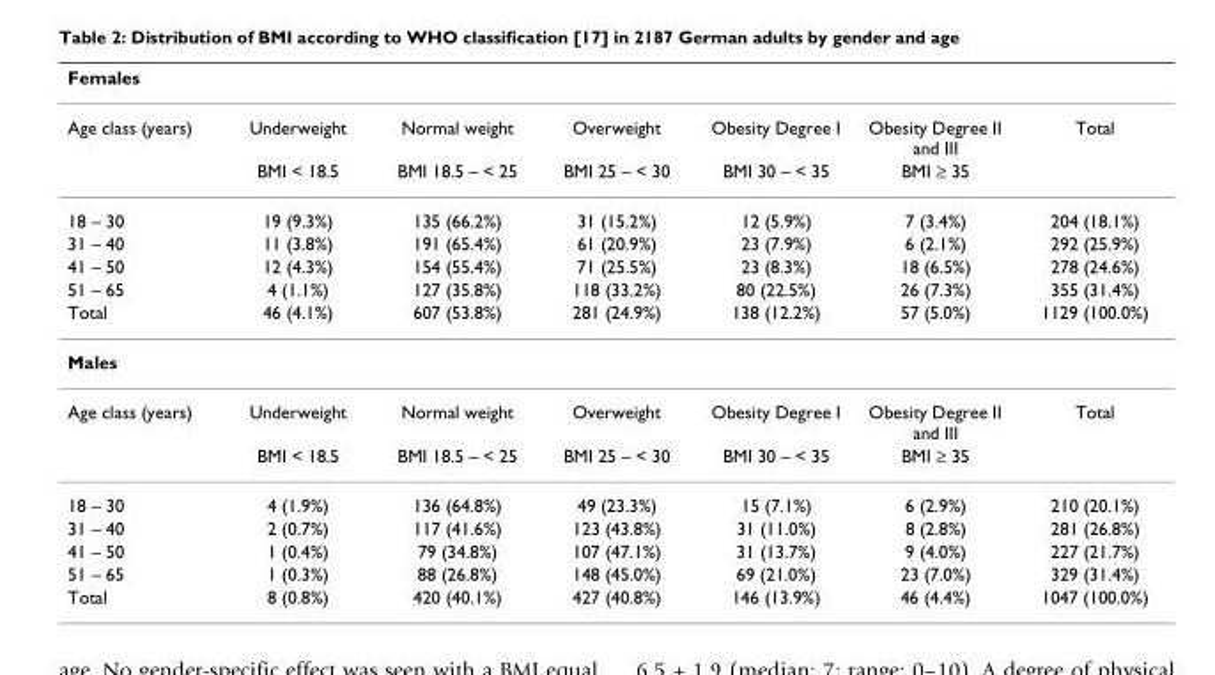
<table><thead><tr><td colspan="7">Females</td></tr><tr><td>Age class (years)</td><td>Underweight</td><td>Normal weight</td><td>Overweight</td><td>Obesity Degree I</td><td>Obesity Degree II and III</td><td>Total</td></tr></thead><tbody><tr><td></td><td>BMI &lt; 18.5</td><td>BMI 18.5 – &lt; 25</td><td>BMI 25 – &lt; 30</td><td>BMI 30 – &lt; 35</td><td>BMI ≥ 35</td><td></td></tr><tr><td>18 – 30</td><td>19 (9.3%)</td><td>135 (66.2%)</td><td>31 (15.2%)</td><td>12 (5.9%)</td><td>7 (3.4%)</td><td>204 (18.1%)</td></tr><tr><td>31 – 40</td><td>11 (3.8%)</td><td>191 (65.4%)</td><td>61 (20.9%)</td><td>23 (7.9%)</td><td>6 (2.1%)</td><td>292 (25.9%)</td></tr><tr><td>41 – 50</td><td>12 (4.3%)</td><td>154 (55.4%)</td><td>71 (25.5%)</td><td>23 (8.3%)</td><td>18 (6.5%)</td><td>278 (24.6%)</td></tr><tr><td>51 – 65</td><td>4 (1.1%)</td><td>127 (35.8%)</td><td>118 (33.2%)</td><td>80 (22.5%)</td><td>26 (7.3%)</td><td>355 (31.4%)</td></tr><tr><td>Total</td><td>46 (4.1%)</td><td>607 (53.8%)</td><td>281 (24.9%)</td><td>138 (12.2%)</td><td>57 (5.0%)</td><td>1129 (100.0%)</td></tr><tr><td colspan="7">Males</td></tr><tr><td rowspan="2">Age class (years)</td><td>Underweight</td><td>Normal weight</td><td>Overweight</td><td>Obesity Degree I</td><td>Obesity Degree II and III</td><td>Total</td></tr><tr><td>BMI &lt; 18.5</td><td>BMI 18.5 – &lt; 25</td><td>BMI 25 – &lt; 30</td><td>BMI 30 – &lt; 35</td><td>BMI ≥ 35</td><td></td></tr><tr><td>18 – 30</td><td>4 (1.9%)</td><td>136 (64.8%)</td><td>49 (23.3%)</td><td>15 (7.1%)</td><td>6 (2.9%)</td><td>210 (20.1%)</td></tr><tr><td>31 – 40</td><td>2 (0.7%)</td><td>117 (41.6%)</td><td>123 (43.8%)</td><td>31 (11.0%)</td><td>8 (2.8%)</td><td>281 (26.8%)</td></tr><tr><td>41 – 50</td><td>1 (0.4%)</td><td>79 (34.8%)</td><td>107 (47.1%)</td><td>31 (13.7%)</td><td>9 (4.0%)</td><td>227 (21.7%)</td></tr><tr><td>51 – 65</td><td>1 (0.3%)</td><td>88 (26.8%)</td><td>148 (45.0%)</td><td>69 (21.0%)</td><td>23 (7.0%)</td><td>329 (31.4%)</td></tr><tr><td>Total</td><td>8 (0.8%)</td><td>420 (40.1%)</td><td>427 (40.8%)</td><td>146 (13.9%)</td><td>46 (4.4%)</td><td>1047 (100.0%)</td></tr></tbody></table>